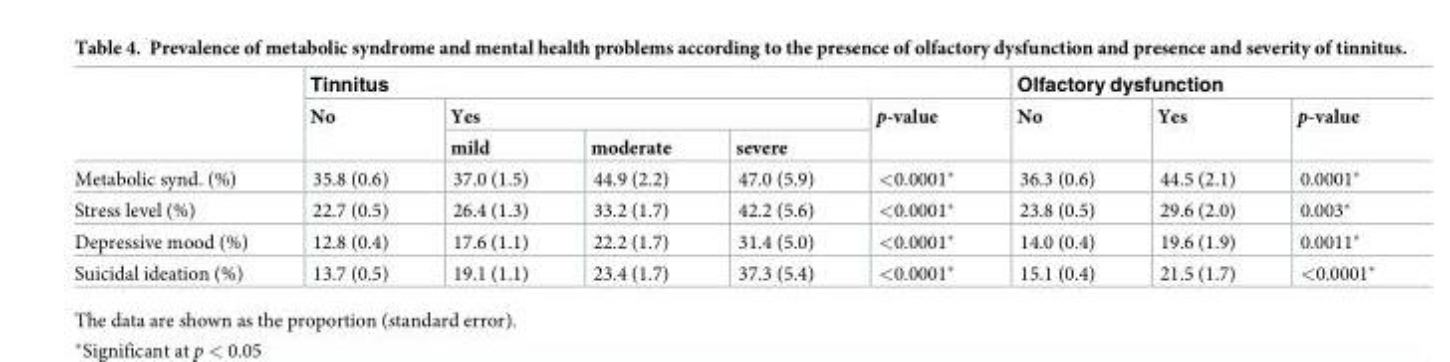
<table><thead><tr><td rowspan="3"></td><td colspan="5">Tinnitus</td><td colspan="3">Olfactory dysfunction</td></tr><tr><td rowspan="2">No</td><td colspan="3">Yes</td><td rowspan="2">p-value</td><td rowspan="2">No</td><td rowspan="2">Yes</td><td rowspan="2">p-value</td></tr><tr><td>mild</td><td>moderate</td><td>severe</td></tr></thead><tbody><tr><td>Metabolic synd. (%)</td><td>35.8 (0.6)</td><td>37.0 (1.5)</td><td>44.9 (2.2)</td><td>47.0 (5.9)</td><td>&lt;0.0001*</td><td>36.3 (0.6)</td><td>44.5 (2.1)</td><td>0.0001*</td></tr><tr><td>Stress level (%)</td><td>22.7 (0.5)</td><td>26.4 (1.3)</td><td>33.2 (1.7)</td><td>42.2 (5.6)</td><td>&lt;0.0001*</td><td>23.8 (0.5)</td><td>29.6 (2.0)</td><td>0.003*</td></tr><tr><td>Depressive mood (%)</td><td>12.8 (0.4)</td><td>17.6 (1.1)</td><td>22.2 (1.7)</td><td>31.4 (5.0)</td><td>&lt;0.0001*</td><td>14.0 (0.4)</td><td>19.6 (1.9)</td><td>0.0011*</td></tr><tr><td>Suicidal ideation (%)</td><td>13.7 (0.5)</td><td>19.1 (1.1)</td><td>23.4 (1.7)</td><td>37.3 (5.4)</td><td>&lt;0.0001*</td><td>15.1 (0.4)</td><td>21.5 (1.7)</td><td>&lt;0.0001*</td></tr></tbody></table>